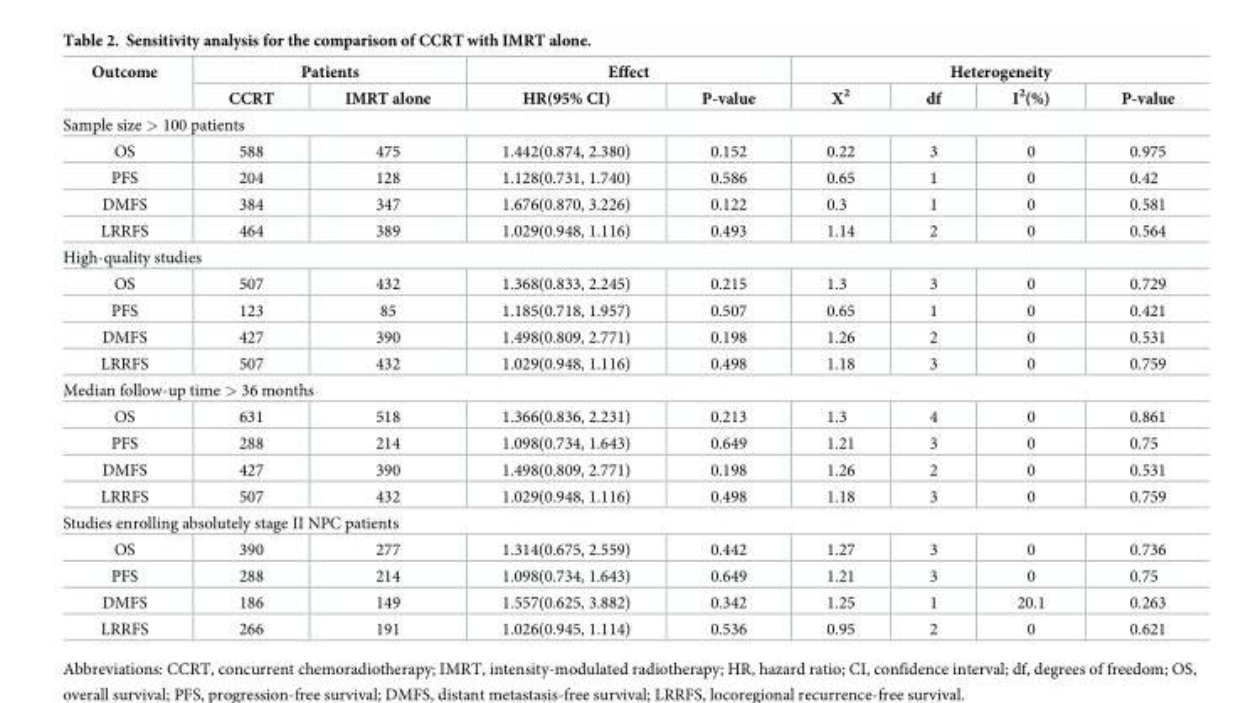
<table><thead><tr><td rowspan="2">Outcome</td><td colspan="2">Patients</td><td colspan="2">Effect</td><td colspan="4">Heterogeneity</td></tr><tr><td>CCRT</td><td>IMRT alone</td><td>HR(95% CI)</td><td>P-value</td><td>X<sup>2</sup></td><td>df</td><td>I<sup>2</sup>(%)</td><td>P-value</td></tr></thead><tbody><tr><td colspan="9">Sample size &gt; 100 patients</td></tr><tr><td>OS</td><td>588</td><td>475</td><td>1.442(0.874, 2.380)</td><td>0.152</td><td>0.22</td><td>3</td><td>0</td><td>0.975</td></tr><tr><td>PFS</td><td>204</td><td>128</td><td>1.128(0.731, 1.740)</td><td>0.586</td><td>0.65</td><td>1</td><td>0</td><td>0.42</td></tr><tr><td>DMFS</td><td>384</td><td>347</td><td>1.676(0.870, 3.226)</td><td>0.122</td><td>0.3</td><td>1</td><td>0</td><td>0.581</td></tr><tr><td>LRRFS</td><td>464</td><td>389</td><td>1.029(0.948, 1.116)</td><td>0.493</td><td>1.14</td><td>2</td><td>0</td><td>0.564</td></tr><tr><td colspan="9">High-quality studies</td></tr><tr><td>OS</td><td>507</td><td>432</td><td>1.368(0.833, 2.245)</td><td>0.215</td><td>1.3</td><td>3</td><td>0</td><td>0.729</td></tr><tr><td>PFS</td><td>123</td><td>85</td><td>1.185(0.718, 1.957)</td><td>0.507</td><td>0.65</td><td>1</td><td>0</td><td>0.421</td></tr><tr><td>DMFS</td><td>427</td><td>390</td><td>1.498(0.809, 2.771)</td><td>0.198</td><td>1.26</td><td>2</td><td>0</td><td>0.531</td></tr><tr><td>LRRFS</td><td>507</td><td>432</td><td>1.029(0.948, 1.116)</td><td>0.498</td><td>1.18</td><td>3</td><td>0</td><td>0.759</td></tr><tr><td colspan="9">Median follow-up time &gt; 36 months</td></tr><tr><td>OS</td><td>631</td><td>518</td><td>1.366(0.836, 2.231)</td><td>0.213</td><td>1.3</td><td>4</td><td>0</td><td>0.861</td></tr><tr><td>PFS</td><td>288</td><td>214</td><td>1.098(0.734, 1.643)</td><td>0.649</td><td>1.21</td><td>3</td><td>0</td><td>0.75</td></tr><tr><td>DMFS</td><td>427</td><td>390</td><td>1.498(0.809, 2.771)</td><td>0.198</td><td>1.26</td><td>2</td><td>0</td><td>0.531</td></tr><tr><td>LRRFS</td><td>507</td><td>432</td><td>1.029(0.948, 1.116)</td><td>0.498</td><td>1.18</td><td>3</td><td>0</td><td>0.759</td></tr><tr><td colspan="9">Studies enrolling absolutely stage II NPC patients</td></tr><tr><td>OS</td><td>390</td><td>277</td><td>1.314(0.675, 2.559)</td><td>0.442</td><td>1.27</td><td>3</td><td>0</td><td>0.736</td></tr><tr><td>PFS</td><td>288</td><td>214</td><td>1.098(0.734, 1.643)</td><td>0.649</td><td>1.21</td><td>3</td><td>0</td><td>0.75</td></tr><tr><td>DMFS</td><td>186</td><td>149</td><td>1.557(0.625, 3.882)</td><td>0.342</td><td>1.25</td><td>1</td><td>20.1</td><td>0.263</td></tr><tr><td>LRRFS</td><td>266</td><td>191</td><td>1.026(0.945, 1.114)</td><td>0.536</td><td>0.95</td><td>2</td><td>0</td><td>0.621</td></tr></tbody></table>